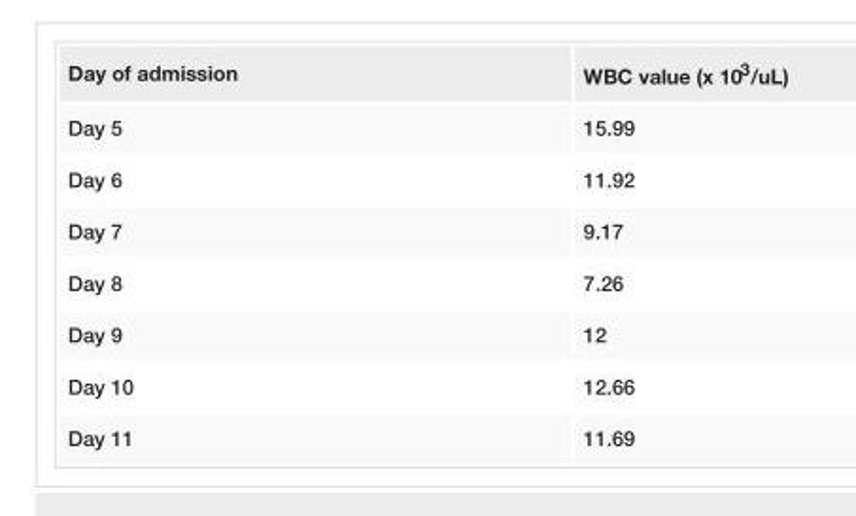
<table><tbody><tr><td>Day of admission</td><td>WBC value (x 10<sup>3</sup>/uL)</td></tr><tr><td>Day 5</td><td>15.99</td></tr><tr><td>Day 6</td><td>11.92</td></tr><tr><td>Day 7</td><td>9.17</td></tr><tr><td>Day 8</td><td>7.26</td></tr><tr><td>Day 9</td><td>12</td></tr><tr><td>Day 10</td><td>12.66</td></tr><tr><td>Day 11</td><td>11.69</td></tr></tbody></table>